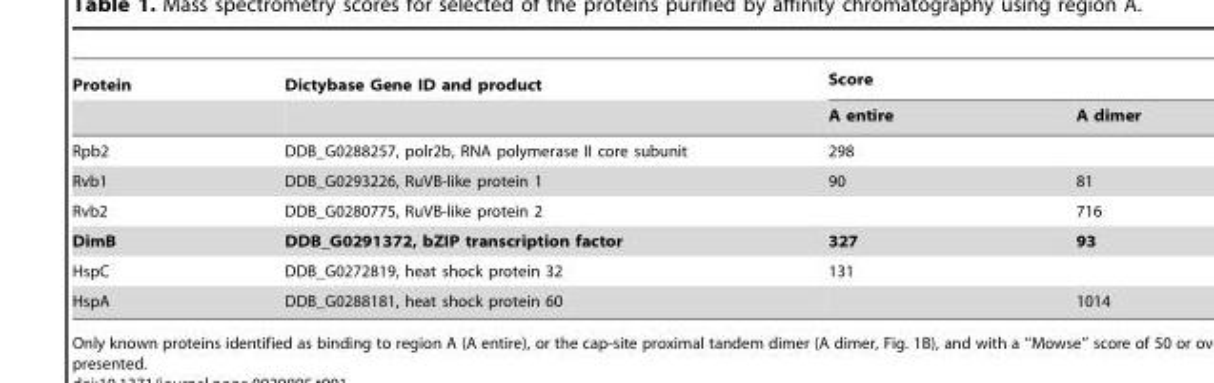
<table><thead><tr><td rowspan="2">Protein</td><td rowspan="2">Dictybase Gene ID and product</td><td colspan="2">Score</td></tr><tr><td>A entire</td><td>A dimer</td></tr></thead><tbody><tr><td>Rpb2</td><td>DDB_G0288257, polr2b, RNA polymerase II core subunit</td><td>298</td><td></td></tr><tr><td>Rvb1</td><td>DDB_G0293226, RuVB-like protein 1</td><td>90</td><td>81</td></tr><tr><td>Rvb2</td><td>DDB_G0280775, RuVB-like protein 2</td><td></td><td>716</td></tr><tr><td>DimB</td><td>DDB_G0291372, bZIP transcription factor</td><td>327</td><td>93</td></tr><tr><td>HspC</td><td>DDB_G0272819, heat shock protein 32</td><td>131</td><td></td></tr><tr><td>HspA</td><td>DDB_G0288181, heat shock protein 60</td><td></td><td>1014</td></tr></tbody></table>